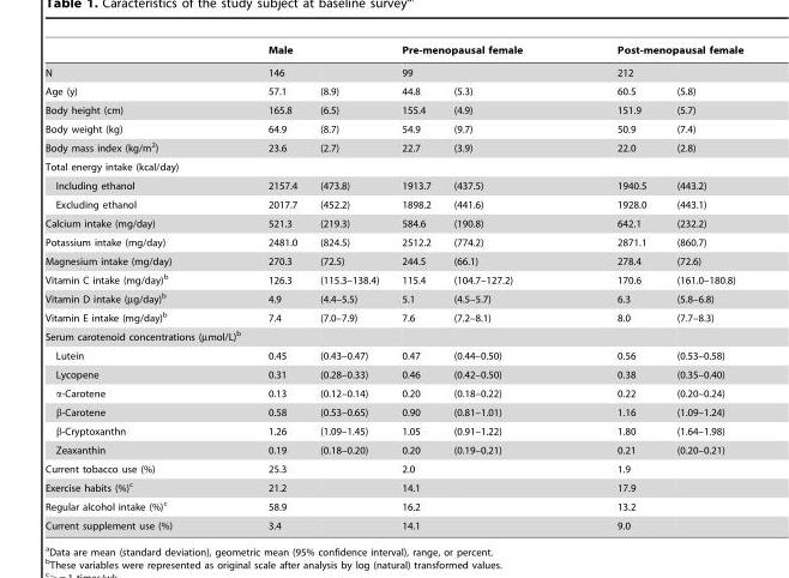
<table><thead><tr><td rowspan="2">N</td><td colspan="2">Male</td><td colspan="2">Pre-menopausal female</td><td colspan="2">Post-menopausal female</td></tr><tr><td>146</td><td></td><td>99</td><td></td><td>212</td><td></td></tr></thead><tbody><tr><td>Age (y)</td><td>57.1</td><td>(8.9)</td><td>44.8</td><td>(5.3)</td><td>60.5</td><td>(5.8)</td></tr><tr><td>Body height (cm)</td><td>165.8</td><td>(6.5)</td><td>155.4</td><td>(4.9)</td><td>151.9</td><td>(5.7)</td></tr><tr><td>Body weight (kg)</td><td>64.9</td><td>(8.7)</td><td>54.9</td><td>(9.7)</td><td>50.9</td><td>(7.4)</td></tr><tr><td>Body mass index (kg/m<sup>2</sup>)</td><td>23.6</td><td>(2.7)</td><td>22.7</td><td>(3.9)</td><td>22.0</td><td>(2.8)</td></tr><tr><td colspan="7">Total energy intake (kcal/day)</td></tr><tr><td>Including ethanol</td><td>2157.4</td><td>(473.8)</td><td>1913.7</td><td>(437.5)</td><td>1940.5</td><td>(443.2)</td></tr><tr><td>Excluding ethanol</td><td>2017.7</td><td>(452.2)</td><td>1898.2</td><td>(441.6)</td><td>1928.0</td><td>(443.1)</td></tr><tr><td>Calcium intake (mg/day)</td><td>521.3</td><td>(219.3)</td><td>584.6</td><td>(190.8)</td><td>642.1</td><td>(232.2)</td></tr><tr><td>Potassium intake (mg/day)</td><td>2481.0</td><td>(824.5)</td><td>2512.2</td><td>(774.2)</td><td>2871.1</td><td>(860.7)</td></tr><tr><td>Magnesium intake (mg/day)</td><td>270.3</td><td>(72.5)</td><td>244.5</td><td>(66.1)</td><td>278.4</td><td>(72.6)</td></tr><tr><td>Vitamin C intake (mg/day)<sup>b</sup></td><td>126.3</td><td>(115.3–138.4)</td><td>115.4</td><td>(104.7–127.2)</td><td>170.6</td><td>(161.0–180.8)</td></tr><tr><td>Vitamin D intake (µg/day)<sup>b</sup></td><td>4.9</td><td>(4.4–5.5)</td><td>5.1</td><td>(4.5–5.7)</td><td>6.3</td><td>(5.8–6.8)</td></tr><tr><td>Vitamin E intake (mg/day)<sup>b</sup></td><td>7.4</td><td>(7.0–7.9)</td><td>7.6</td><td>(7.2–8.1)</td><td>8.0</td><td>(7.7–8.3)</td></tr><tr><td colspan="7">Serum carotenoid concentrations (µmol/L)<sup>b</sup></td></tr><tr><td>Lutein</td><td>0.45</td><td>(0.43–0.47)</td><td>0.47</td><td>(0.44–0.50)</td><td>0.56</td><td>(0.53–0.58)</td></tr><tr><td>Lycopene</td><td>0.31</td><td>(0.28–0.33)</td><td>0.46</td><td>(0.42–0.50)</td><td>0.38</td><td>(0.35–0.40)</td></tr><tr><td>α-Carotene</td><td>0.13</td><td>(0.12–0.14)</td><td>0.20</td><td>(0.18–0.22)</td><td>0.22</td><td>(0.20–0.24)</td></tr><tr><td>β-Carotene</td><td>0.58</td><td>(0.53–0.65)</td><td>0.90</td><td>(0.81–1.01)</td><td>1.16</td><td>(1.09–1.24)</td></tr><tr><td>β-Cryptoxanthn</td><td>1.26</td><td>(1.09–1.45)</td><td>1.05</td><td>(0.91–1.22)</td><td>1.80</td><td>(1.64–1.98)</td></tr><tr><td>Zeaxanthin</td><td>0.19</td><td>(0.18–0.20)</td><td>0.20</td><td>(0.19–0.21)</td><td>0.21</td><td>(0.20–0.21)</td></tr><tr><td>Current tobacco use (%)</td><td>25.3</td><td></td><td>2.0</td><td></td><td>1.9</td><td></td></tr><tr><td>Exercise habits (%)<sup>c</sup></td><td>21.2</td><td></td><td>14.1</td><td></td><td>17.9</td><td></td></tr><tr><td>Regular alcohol intake (%)<sup>c</sup></td><td>58.9</td><td></td><td>16.2</td><td></td><td>13.2</td><td></td></tr><tr><td>Current supplement use (%)</td><td>3.4</td><td></td><td>14.1</td><td></td><td>9.0</td><td></td></tr></tbody></table>